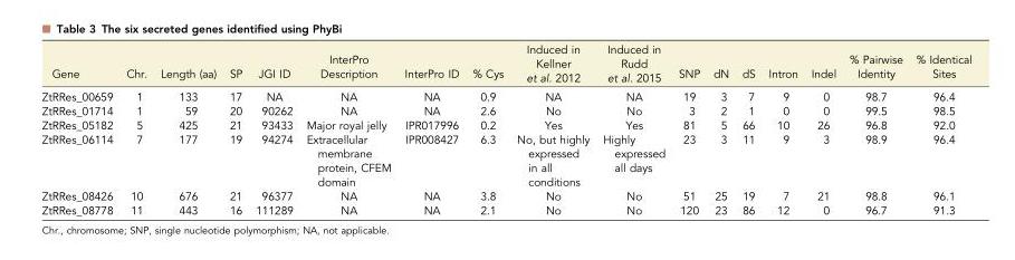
<table><thead><tr><td>Gene</td><td>Chr.</td><td>Length (aa)</td><td>SP</td><td>JGI ID</td><td>InterPro Description</td><td>InterPro ID</td><td>% Cys</td><td>Induced in Kellner et al. 2012</td><td>Induced in Rudd et al. 2015</td><td>SNP</td><td>dN</td><td>dS</td><td>Intron</td><td>Indel</td><td>% Pairwise Identity</td><td>% Identical Sites</td></tr></thead><tbody><tr><td>ZtRRes_00659</td><td>1</td><td>133</td><td>17</td><td>NA</td><td>NA</td><td>NA</td><td>0.9</td><td>NA</td><td>NA</td><td>19</td><td>3</td><td>7</td><td>9</td><td>0</td><td>98.7</td><td>96.4</td></tr><tr><td>ZtRRes_01714</td><td>1</td><td>59</td><td>20</td><td>90262</td><td>NA</td><td>NA</td><td>2.6</td><td>No</td><td>No</td><td>3</td><td>2</td><td>1</td><td>0</td><td>0</td><td>99.5</td><td>98.5</td></tr><tr><td>ZtRRes_05182</td><td>5</td><td>425</td><td>21</td><td>93433</td><td>Major royal jelly</td><td>IPR017996</td><td>0.2</td><td>Yes</td><td>Yes</td><td>81</td><td>5</td><td>66</td><td>10</td><td>26</td><td>96.8</td><td>92.0</td></tr><tr><td>ZtRRes_06114</td><td>7</td><td>177</td><td>19</td><td>94274</td><td>Extracellular membrane protein, CFEM domain</td><td>IPR008427</td><td>6.3</td><td>No, but highly expressed in all conditions</td><td>Highly expressed all days</td><td>23</td><td>3</td><td>11</td><td>9</td><td>3</td><td>98.9</td><td>96.4</td></tr><tr><td>ZtRRes_08426</td><td>10</td><td>676</td><td>21</td><td>96377</td><td>NA</td><td>NA</td><td>3.8</td><td>No</td><td>No</td><td>51</td><td>25</td><td>19</td><td>7</td><td>21</td><td>98.8</td><td>96.1</td></tr><tr><td>ZtRRes_08778</td><td>11</td><td>443</td><td>16</td><td>111289</td><td>NA</td><td>NA</td><td>2.1</td><td>No</td><td>No</td><td>120</td><td>23</td><td>86</td><td>12</td><td>0</td><td>96.7</td><td>91.3</td></tr></tbody></table>